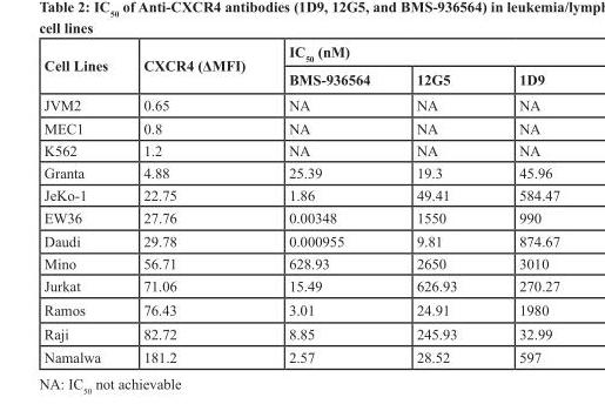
<table><thead><tr><td rowspan="2">Cell Lines</td><td rowspan="2">CXCR4 (ΔMFI)</td><td colspan="3">IC<sub>50</sub> (nM)</td></tr><tr><td>BMS-936564</td><td>12G5</td><td>1D9</td></tr></thead><tbody><tr><td>JVM2</td><td>0.65</td><td>NA</td><td>NA</td><td>NA</td></tr><tr><td>MEC1</td><td>0.8</td><td>NA</td><td>NA</td><td>NA</td></tr><tr><td>K562</td><td>1.2</td><td>NA</td><td>NA</td><td>NA</td></tr><tr><td>Granta</td><td>4.88</td><td>25.39</td><td>19.3</td><td>45.96</td></tr><tr><td>JeKo-1</td><td>22.75</td><td>1.86</td><td>49.41</td><td>584.47</td></tr><tr><td>EW36</td><td>27.76</td><td>0.00348</td><td>1550</td><td>990</td></tr><tr><td>Daudi</td><td>29.78</td><td>0.000955</td><td>9.81</td><td>874.67</td></tr><tr><td>Mino</td><td>56.71</td><td>628.93</td><td>2650</td><td>3010</td></tr><tr><td>Jurkat</td><td>71.06</td><td>15.49</td><td>626.93</td><td>270.27</td></tr><tr><td>Ramos</td><td>76.43</td><td>3.01</td><td>24.91</td><td>1980</td></tr><tr><td>Raji</td><td>82.72</td><td>8.85</td><td>245.93</td><td>32.99</td></tr><tr><td>Namalwa</td><td>181.2</td><td>2.57</td><td>28.52</td><td>597</td></tr></tbody></table>